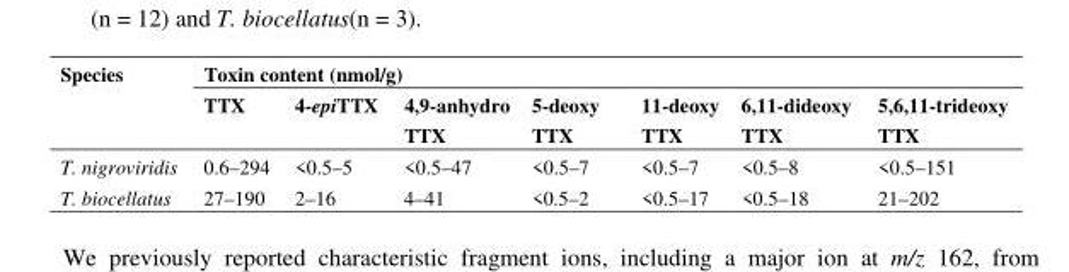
<table><thead><tr><td rowspan="2">Species</td><td colspan="7">Toxin content (nmol/g)</td></tr><tr><td>TTX</td><td>4-epiTTX</td><td>4,9-anhydro TTX</td><td>5-deoxy TTX</td><td>11-deoxy TTX</td><td>6,11-dideoxy TTX</td><td>5,6,11-trideoxy TTX</td></tr></thead><tbody><tr><td>T. nigroviridis</td><td>0.6–294</td><td>&lt;0.5–5</td><td>&lt;0.5–47</td><td>&lt;0.5–7</td><td>&lt;0.5–7</td><td>&lt;0.5–8</td><td>&lt;0.5–151</td></tr><tr><td>T. biocellatus</td><td>27–190</td><td>2–16</td><td>4–41</td><td>&lt;0.5–2</td><td>&lt;0.5–17</td><td>&lt;0.5–18</td><td>21–202</td></tr></tbody></table>